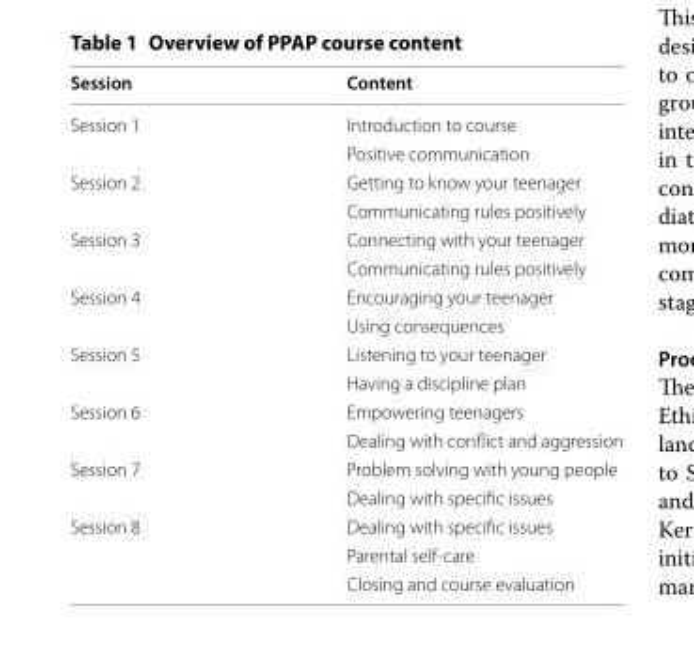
<table><thead><tr><td>Session</td><td>Content</td></tr></thead><tbody><tr><td rowspan="2">Session 1</td><td>Introduction to course</td></tr><tr><td>Positive communication</td></tr><tr><td rowspan="2">Session 2</td><td>Getting to know your teenager</td></tr><tr><td>Communicating rules positively</td></tr><tr><td rowspan="2">Session 3</td><td>Connecting with your teenager</td></tr><tr><td>Communicating rules positively</td></tr><tr><td rowspan="2">Session 4</td><td>Encouraging your teenager</td></tr><tr><td>Using consequences</td></tr><tr><td rowspan="2">Session 5</td><td>Listening to your teenager</td></tr><tr><td>Having a discipline plan</td></tr><tr><td rowspan="2">Session 6</td><td>Empowering teenagers</td></tr><tr><td>Dealing with conflict and aggression</td></tr><tr><td rowspan="2">Session 7</td><td>Problem solving with young people</td></tr><tr><td>Dealing with specific issues</td></tr><tr><td rowspan="3">Session 8</td><td>Dealing with specific issues</td></tr><tr><td>Parental self-care</td></tr><tr><td>Closing and course evaluation</td></tr></tbody></table>